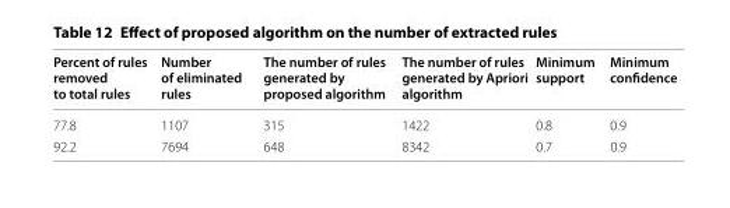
<table><thead><tr><td>Percent of rules removed to total rules</td><td>Number of eliminated rules</td><td>The number of rules generated by proposed algorithm</td><td>The number of rules generated by Apriori algorithm</td><td>Minimum support</td><td>Minimum confidence</td></tr></thead><tbody><tr><td>77.8</td><td>1107</td><td>315</td><td>1422</td><td>0.8</td><td>0.9</td></tr><tr><td>92.2</td><td>7694</td><td>648</td><td>8342</td><td>0.7</td><td>0.9</td></tr></tbody></table>